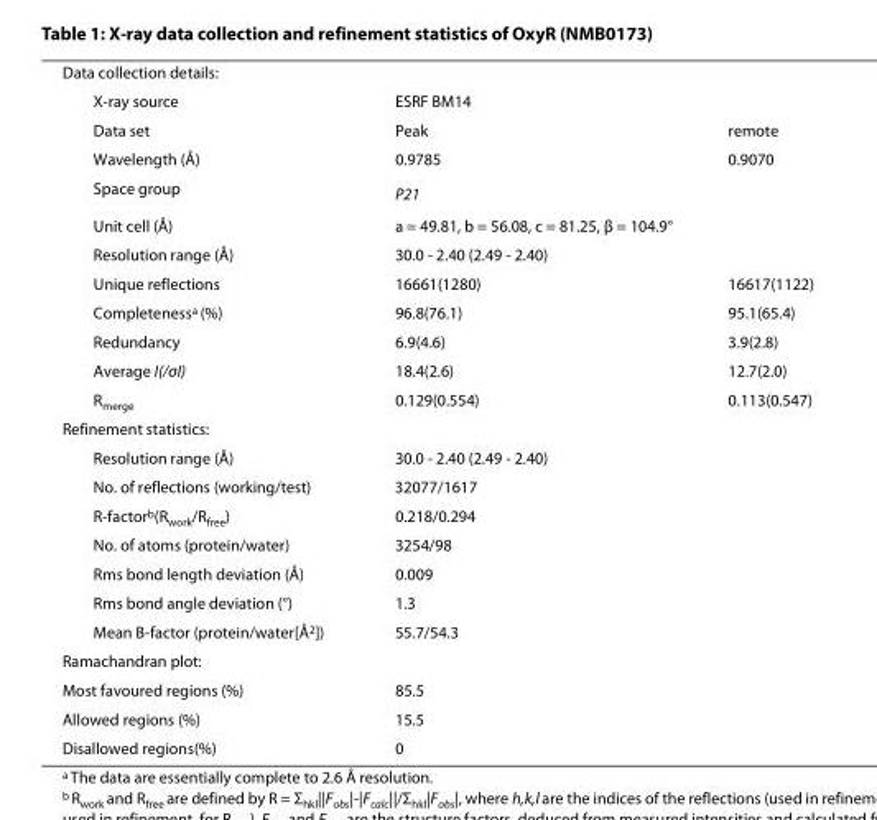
<table><tbody><tr><td colspan="3">Data collection details:</td></tr><tr><td>X-ray source</td><td>ESRF BM14</td><td></td></tr><tr><td>Data set</td><td>Peak</td><td>remote</td></tr><tr><td>Wavelength (Å)</td><td>0.9785</td><td>0.9070</td></tr><tr><td>Space group</td><td>P2<sub>1</sub></td><td></td></tr><tr><td>Unit cell (Å)</td><td>a = 49.81, b = 56.08, c = 81.25, β = 104.9°</td><td></td></tr><tr><td>Resolution range (Å)</td><td>30.0 - 2.40 (2.49 - 2.40)</td><td></td></tr><tr><td>Unique reflections</td><td>16661(1280)</td><td>16617(1122)</td></tr><tr><td>Completeness<sup>a</sup> (%)</td><td>96.8(76.1)</td><td>95.1(65.4)</td></tr><tr><td>Redundancy</td><td>6.9(4.6)</td><td>3.9(2.8)</td></tr><tr><td>Average I(/σI)</td><td>18.4(2.6)</td><td>12.7(2.0)</td></tr><tr><td>R<sub>merge</sub></td><td>0.129(0.554)</td><td>0.113(0.547)</td></tr><tr><td colspan="3">Refinement statistics:</td></tr><tr><td>Resolution range (Å)</td><td>30.0 - 2.40 (2.49 - 2.40)</td><td></td></tr><tr><td>No. of reflections (working/test)</td><td>32077/1617</td><td></td></tr><tr><td>R-factor<sup>b</sup>(R<sub>work</sub>/R<sub>free</sub>)</td><td>0.218/0.294</td><td></td></tr><tr><td>No. of atoms (protein/water)</td><td>3254/98</td><td></td></tr><tr><td>Rms bond length deviation (Å)</td><td>0.009</td><td></td></tr><tr><td>Rms bond angle deviation (°)</td><td>1.3</td><td></td></tr><tr><td>Mean B-factor (protein/water[Å<sup>2</sup>])</td><td>55.7/54.3</td><td></td></tr><tr><td colspan="3">Ramachandran plot:</td></tr><tr><td>Most favoured regions (%)</td><td>85.5</td><td></td></tr><tr><td>Allowed regions (%)</td><td>15.5</td><td></td></tr><tr><td>Disallowed regions(%)</td><td>0</td><td></td></tr></tbody></table>